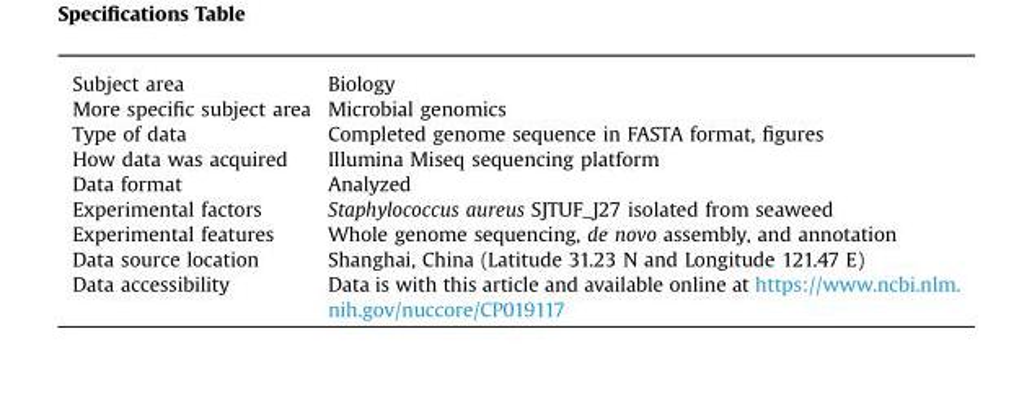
<table><tbody><tr><td>Subject area</td><td>Biology</td></tr><tr><td>More specific subject area</td><td>Microbial genomics</td></tr><tr><td>Type of data</td><td>Completed genome sequence in FASTA format, figures</td></tr><tr><td>How data was acquired</td><td>Illumina Miseq sequencing platform</td></tr><tr><td>Data format</td><td>Analyzed</td></tr><tr><td>Experimental factors</td><td>Staphylococcus aureus SJTUF_J27 isolated from seaweed</td></tr><tr><td>Experimental features</td><td>Whole genome sequencing, de novo assembly, and annotation</td></tr><tr><td>Data source location</td><td>Shanghai, China (Latitude 31.23 N and Longitude 121.47 E)</td></tr><tr><td>Data accessibility</td><td>Data is with this article and available online at https://www.ncbi.nlm. nih.gov/nuccore/CP019117</td></tr></tbody></table>